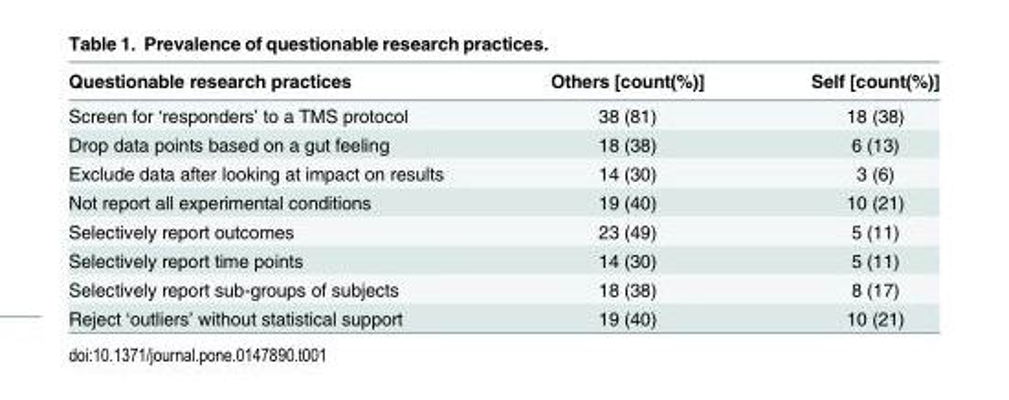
<table><thead><tr><td>Questionable research practices</td><td>Others [count(%)]</td><td>Self [count(%)]</td></tr></thead><tbody><tr><td>Screen for ‘responders’ to a TMS protocol</td><td>38 (81)</td><td>18 (38)</td></tr><tr><td>Drop data points based on a gut feeling</td><td>18 (38)</td><td>6 (13)</td></tr><tr><td>Exclude data after looking at impact on results</td><td>14 (30)</td><td>3 (6)</td></tr><tr><td>Not report all experimental conditions</td><td>19 (40)</td><td>10 (21)</td></tr><tr><td>Selectively report outcomes</td><td>23 (49)</td><td>5 (11)</td></tr><tr><td>Selectively report time points</td><td>14 (30)</td><td>5 (11)</td></tr><tr><td>Selectively report sub-groups of subjects</td><td>18 (38)</td><td>8 (17)</td></tr><tr><td>Reject ‘outliers’ without statistical support</td><td>19 (40)</td><td>10 (21)</td></tr></tbody></table>